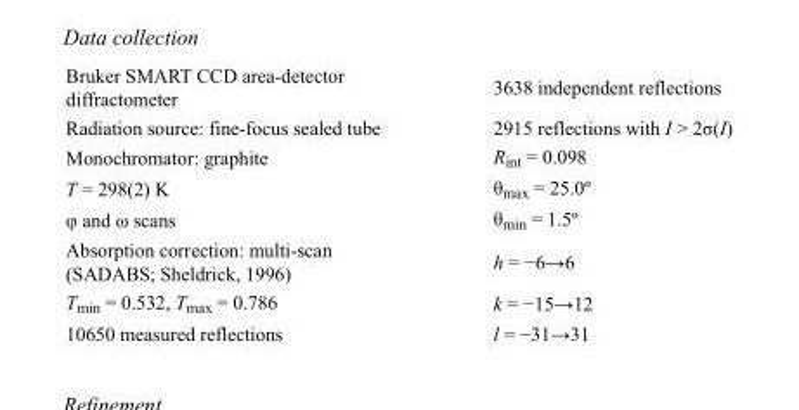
<table><tbody><tr><td>Bruker SMART CCD area-detector diffractometer</td><td>3638 independent reflections</td></tr><tr><td>Radiation source: fine-focus sealed tube</td><td>2915 reflections with I &gt; 2σ(I)</td></tr><tr><td>Monochromator: graphite</td><td>R<sub>int</sub> = 0.098</td></tr><tr><td>T = 298(2) K</td><td>θ<sub>max</sub> = 25.0º</td></tr><tr><td>φ and ω scans</td><td>θ<sub>min</sub> = 1.5º</td></tr><tr><td>Absorption correction: multi-scan (SADABS; Sheldrick, 1996)</td><td>h = −6→6</td></tr><tr><td>T<sub>min</sub> = 0.532, T<sub>max</sub> = 0.786</td><td>k = −15→12</td></tr><tr><td>10650 measured reflections</td><td>l = −31→31</td></tr></tbody></table>